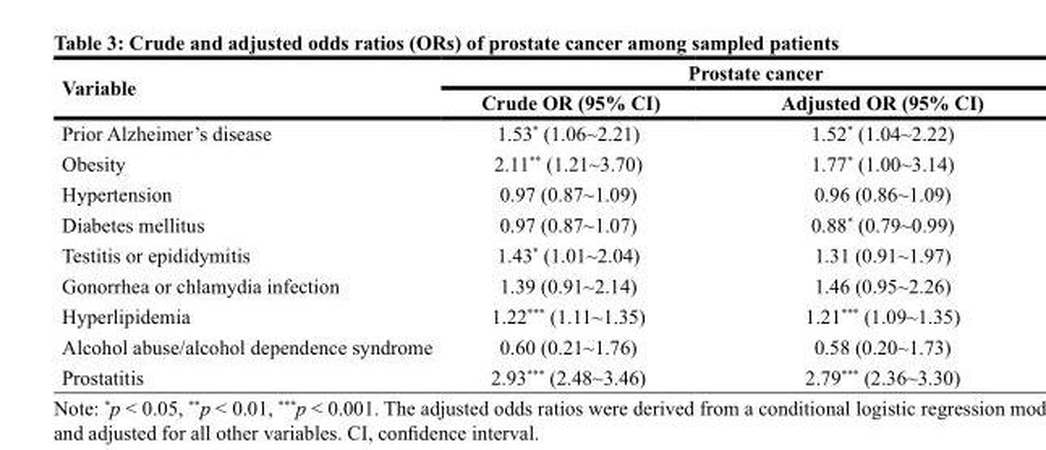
<table><thead><tr><td rowspan="2">Variable</td><td colspan="2">Prostate cancer</td></tr><tr><td>Crude OR (95% CI)</td><td>Adjusted OR (95% CI)</td></tr></thead><tbody><tr><td>Prior Alzheimer’s disease</td><td>1.53* (1.06~2.21)</td><td>1.52* (1.04~2.22)</td></tr><tr><td>Obesity</td><td>2.11** (1.21~3.70)</td><td>1.77* (1.00~3.14)</td></tr><tr><td>Hypertension</td><td>0.97 (0.87~1.09)</td><td>0.96 (0.86~1.09)</td></tr><tr><td>Diabetes mellitus</td><td>0.97 (0.87~1.07)</td><td>0.88* (0.79~0.99)</td></tr><tr><td>Testitis or epididymitis</td><td>1.43* (1.01~2.04)</td><td>1.31 (0.91~1.97)</td></tr><tr><td>Gonorrhea or chlamydia infection</td><td>1.39 (0.91~2.14)</td><td>1.46 (0.95~2.26)</td></tr><tr><td>Hyperlipidemia</td><td>1.22*** (1.11~1.35)</td><td>1.21*** (1.09~1.35)</td></tr><tr><td>Alcohol abuse/alcohol dependence syndrome</td><td>0.60 (0.21~1.76)</td><td>0.58 (0.20~1.73)</td></tr><tr><td>Prostatitis</td><td>2.93*** (2.48~3.46)</td><td>2.79*** (2.36~3.30)</td></tr></tbody></table>